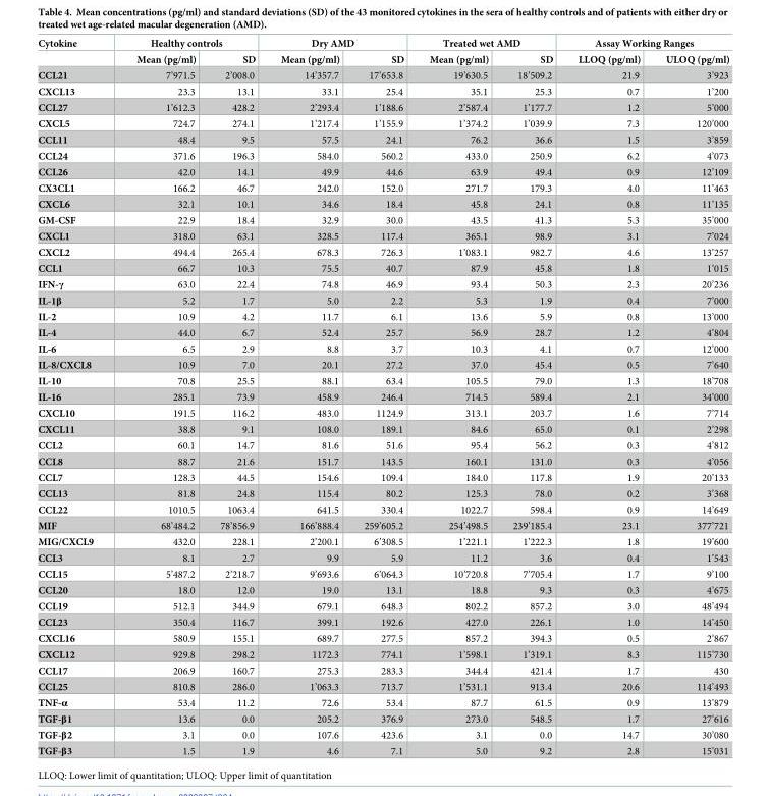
<table><thead><tr><td rowspan="2">Cytokine</td><td colspan="2">Healthy controls</td><td colspan="2">Dry AMD</td><td colspan="2">Treated wet AMD</td><td colspan="2">Assay Working Ranges</td></tr><tr><td>Mean (pg/ml)</td><td>SD</td><td>Mean (pg/ml)</td><td>SD</td><td>Mean (pg/ml)</td><td>SD</td><td>LLOQ (pg/ml)</td><td>ULOQ (pg/ml)</td></tr></thead><tbody><tr><td>CCL21</td><td>7’971.5</td><td>2’008.0</td><td>14’357.7</td><td>17’653.8</td><td>19’630.5</td><td>18’509.2</td><td>21.9</td><td>3’923</td></tr><tr><td>CXCL13</td><td>23.3</td><td>13.1</td><td>33.1</td><td>25.4</td><td>35.1</td><td>25.3</td><td>0.7</td><td>1’200</td></tr><tr><td>CCL27</td><td>1’612.3</td><td>428.2</td><td>2’293.4</td><td>1’188.6</td><td>2’587.4</td><td>1’177.7</td><td>1.2</td><td>5’000</td></tr><tr><td>CXCL5</td><td>724.7</td><td>274.1</td><td>1’217.4</td><td>1’155.9</td><td>1’374.2</td><td>1’039.9</td><td>7.3</td><td>120’000</td></tr><tr><td>CCL11</td><td>48.4</td><td>9.5</td><td>57.5</td><td>24.1</td><td>76.2</td><td>36.6</td><td>1.5</td><td>3’859</td></tr><tr><td>CCL24</td><td>371.6</td><td>196.3</td><td>584.0</td><td>560.2</td><td>433.0</td><td>250.9</td><td>6.2</td><td>4’073</td></tr><tr><td>CCL26</td><td>42.0</td><td>14.1</td><td>49.9</td><td>44.6</td><td>63.9</td><td>49.4</td><td>0.9</td><td>12’109</td></tr><tr><td>CX3CL1</td><td>166.2</td><td>46.7</td><td>242.0</td><td>152.0</td><td>271.7</td><td>179.3</td><td>4.0</td><td>11’463</td></tr><tr><td>CXCL6</td><td>32.1</td><td>10.1</td><td>34.6</td><td>18.4</td><td>45.8</td><td>24.1</td><td>0.8</td><td>11’135</td></tr><tr><td>GM-CSF</td><td>22.9</td><td>18.4</td><td>32.9</td><td>30.0</td><td>43.5</td><td>41.3</td><td>5.3</td><td>35’000</td></tr><tr><td>CXCL1</td><td>318.0</td><td>63.1</td><td>328.5</td><td>117.4</td><td>365.1</td><td>98.9</td><td>3.1</td><td>7’024</td></tr><tr><td>CXCL2</td><td>494.4</td><td>265.4</td><td>678.3</td><td>726.3</td><td>1’083.1</td><td>982.7</td><td>4.6</td><td>13’257</td></tr><tr><td>CCL1</td><td>66.7</td><td>10.3</td><td>75.5</td><td>40.7</td><td>87.9</td><td>45.8</td><td>1.8</td><td>1’015</td></tr><tr><td>IFN-γ</td><td>63.0</td><td>22.4</td><td>74.8</td><td>46.9</td><td>93.4</td><td>50.3</td><td>2.3</td><td>20’236</td></tr><tr><td>IL-1β</td><td>5.2</td><td>1.7</td><td>5.0</td><td>2.2</td><td>5.3</td><td>1.9</td><td>0.4</td><td>7’000</td></tr><tr><td>IL-2</td><td>10.9</td><td>4.2</td><td>11.7</td><td>6.1</td><td>13.6</td><td>5.9</td><td>0.8</td><td>13’000</td></tr><tr><td>IL-4</td><td>44.0</td><td>6.7</td><td>52.4</td><td>25.7</td><td>56.9</td><td>28.7</td><td>1.2</td><td>4’804</td></tr><tr><td>IL-6</td><td>6.5</td><td>2.9</td><td>8.8</td><td>3.7</td><td>10.3</td><td>4.1</td><td>0.7</td><td>12’000</td></tr><tr><td>IL-8/CXCL8</td><td>10.9</td><td>7.0</td><td>20.1</td><td>27.2</td><td>37.0</td><td>45.4</td><td>0.5</td><td>7’640</td></tr><tr><td>IL-10</td><td>70.8</td><td>25.5</td><td>88.1</td><td>63.4</td><td>105.5</td><td>79.0</td><td>1.3</td><td>18’708</td></tr><tr><td>IL-16</td><td>285.1</td><td>73.9</td><td>458.9</td><td>246.4</td><td>714.5</td><td>589.4</td><td>2.1</td><td>34’000</td></tr><tr><td>CXCL10</td><td>191.5</td><td>116.2</td><td>483.0</td><td>1124.9</td><td>313.1</td><td>203.7</td><td>1.6</td><td>7’714</td></tr><tr><td>CXCL11</td><td>38.8</td><td>9.1</td><td>108.0</td><td>189.1</td><td>84.6</td><td>65.0</td><td>0.1</td><td>2’298</td></tr><tr><td>CCL2</td><td>60.1</td><td>14.7</td><td>81.6</td><td>51.6</td><td>95.4</td><td>56.2</td><td>0.3</td><td>4’812</td></tr><tr><td>CCL8</td><td>88.7</td><td>21.6</td><td>151.7</td><td>143.5</td><td>160.1</td><td>131.0</td><td>0.3</td><td>4’056</td></tr><tr><td>CCL7</td><td>128.3</td><td>44.5</td><td>154.6</td><td>109.4</td><td>184.0</td><td>117.8</td><td>1.9</td><td>20’133</td></tr><tr><td>CCL13</td><td>81.8</td><td>24.8</td><td>115.4</td><td>80.2</td><td>125.3</td><td>78.0</td><td>0.2</td><td>3’368</td></tr><tr><td>CCL22</td><td>1010.5</td><td>1063.4</td><td>641.5</td><td>330.4</td><td>1022.7</td><td>598.4</td><td>0.9</td><td>14’649</td></tr><tr><td>MIF</td><td>68’484.2</td><td>78’856.9</td><td>166’888.4</td><td>259’605.2</td><td>254’498.5</td><td>239’185.4</td><td>23.1</td><td>377’721</td></tr><tr><td>MIG/CXCL9</td><td>432.0</td><td>228.1</td><td>2’200.1</td><td>6’308.5</td><td>1’221.1</td><td>1’222.3</td><td>1.8</td><td>19’600</td></tr><tr><td>CCL3</td><td>8.1</td><td>2.7</td><td>9.9</td><td>5.9</td><td>11.2</td><td>3.6</td><td>0.4</td><td>1’543</td></tr><tr><td>CCL15</td><td>5’487.2</td><td>2’218.7</td><td>9’693.6</td><td>6’064.3</td><td>10’720.8</td><td>7’705.4</td><td>1.7</td><td>9’100</td></tr><tr><td>CCL20</td><td>18.0</td><td>12.0</td><td>19.0</td><td>13.1</td><td>18.8</td><td>9.3</td><td>0.3</td><td>4’675</td></tr><tr><td>CCL19</td><td>512.1</td><td>344.9</td><td>679.1</td><td>648.3</td><td>802.2</td><td>857.2</td><td>3.0</td><td>48’494</td></tr><tr><td>CCL23</td><td>350.4</td><td>116.7</td><td>399.1</td><td>192.6</td><td>427.0</td><td>226.1</td><td>1.0</td><td>14’450</td></tr><tr><td>CXCL16</td><td>580.9</td><td>155.1</td><td>689.7</td><td>277.5</td><td>857.2</td><td>394.3</td><td>0.5</td><td>2’867</td></tr><tr><td>CXCL12</td><td>929.8</td><td>298.2</td><td>1172.3</td><td>774.1</td><td>1’598.1</td><td>1’319.1</td><td>8.3</td><td>115’730</td></tr><tr><td>CCL17</td><td>206.9</td><td>160.7</td><td>275.3</td><td>283.3</td><td>344.4</td><td>421.4</td><td>1.7</td><td>430</td></tr><tr><td>CCL25</td><td>810.8</td><td>286.0</td><td>1’063.3</td><td>713.7</td><td>1’531.1</td><td>913.4</td><td>20.6</td><td>114’493</td></tr><tr><td>TNF-α</td><td>53.4</td><td>11.2</td><td>72.6</td><td>53.4</td><td>87.7</td><td>61.5</td><td>0.9</td><td>13’879</td></tr><tr><td>TGF-β1</td><td>13.6</td><td>0.0</td><td>205.2</td><td>376.9</td><td>273.0</td><td>548.5</td><td>1.7</td><td>27’616</td></tr><tr><td>TGF-β2</td><td>3.1</td><td>0.0</td><td>107.6</td><td>423.6</td><td>3.1</td><td>0.0</td><td>14.7</td><td>30’080</td></tr><tr><td>TGF-β3</td><td>1.5</td><td>1.9</td><td>4.6</td><td>7.1</td><td>5.0</td><td>9.2</td><td>2.8</td><td>15’031</td></tr></tbody></table>